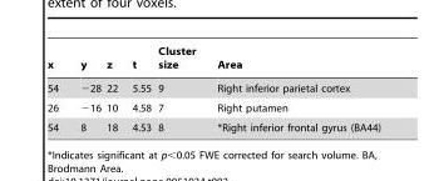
<table><thead><tr><td>x</td><td>y</td><td>z</td><td>t</td><td>Cluster size</td><td>Area</td></tr></thead><tbody><tr><td>54</td><td>−28</td><td>22</td><td>5.55</td><td>9</td><td>Right inferior parietal cortex</td></tr><tr><td>26</td><td>−16</td><td>10</td><td>4.58</td><td>7</td><td>Right putamen</td></tr><tr><td>54</td><td>8</td><td>18</td><td>4.53</td><td>8</td><td>*Right inferior frontal gyrus (BA44)</td></tr></tbody></table>